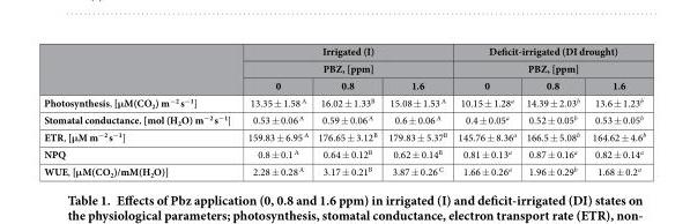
<table><thead><tr><td rowspan="3"></td><td rowspan="2" colspan="3">Irrigated (I) PBZ, [ppm]</td><td rowspan="2" colspan="3">Deficit-irrigated (DI drought) PBZ, [ppm]</td></tr><tr></tr><tr><td>0</td><td>0.8</td><td>1.6</td><td>0</td><td>0.8</td><td>1.6</td></tr></thead><tbody><tr><td>Photosynthesis, [μM(CO<sub>2</sub>) m<sup>−2</sup> s<sup>−1</sup>]</td><td>13.35 ± 1.58 <sup>A</sup></td><td>16.02 ± 1.33<sup>B</sup></td><td>15.08 ± 1.53 <sup>A</sup></td><td>10.15 ± 1.28<sup>a</sup></td><td>14.39 ± 2.03<sup>b</sup></td><td>13.6 ± 1.23<sup>b</sup></td></tr><tr><td>Stomatal conductance, [mol (H<sub>2</sub>O) m<sup>−2</sup> s<sup>−1</sup>]</td><td>0.53 ± 0.06 <sup>A</sup></td><td>0.59 ± 0.06 <sup>A</sup></td><td>0.6 ± 0.06 <sup>A</sup></td><td>0.4 ± 0.05<sup>a</sup></td><td>0.52 ± 0.05<sup>b</sup></td><td>0.53 ± 0.05<sup>b</sup></td></tr><tr><td>ETR, [μM m<sup>−2</sup> s<sup>−1</sup>]</td><td>159.83 ± 6.95 <sup>A</sup></td><td>176.65 ± 3.12<sup>B</sup></td><td>179.83 ± 5.37<sup>B</sup></td><td>145.76 ± 8.36<sup>a</sup></td><td>166.5 ± 5.08<sup>b</sup></td><td>164.62 ± 4.6<sup>b</sup></td></tr><tr><td>NPQ</td><td>0.8 ± 0.1 <sup>A</sup></td><td>0.64 ± 0.12<sup>B</sup></td><td>0.62 ± 0.14<sup>B</sup></td><td>0.81 ± 0.13<sup>a</sup></td><td>0.87 ± 0.16<sup>a</sup></td><td>0.82 ± 0.14<sup>a</sup></td></tr><tr><td>WUE, [μM(CO<sub>2</sub>)/mM(H<sub>2</sub>O)]</td><td>2.28 ± 0.28 <sup>A</sup></td><td>3.17 ± 0.21<sup>B</sup></td><td>3.87 ± 0.26 <sup>C</sup></td><td>1.66 ± 0.26<sup>a</sup></td><td>1.96 ± 0.29<sup>b</sup></td><td>1.68 ± 0.2<sup>a</sup></td></tr></tbody></table>